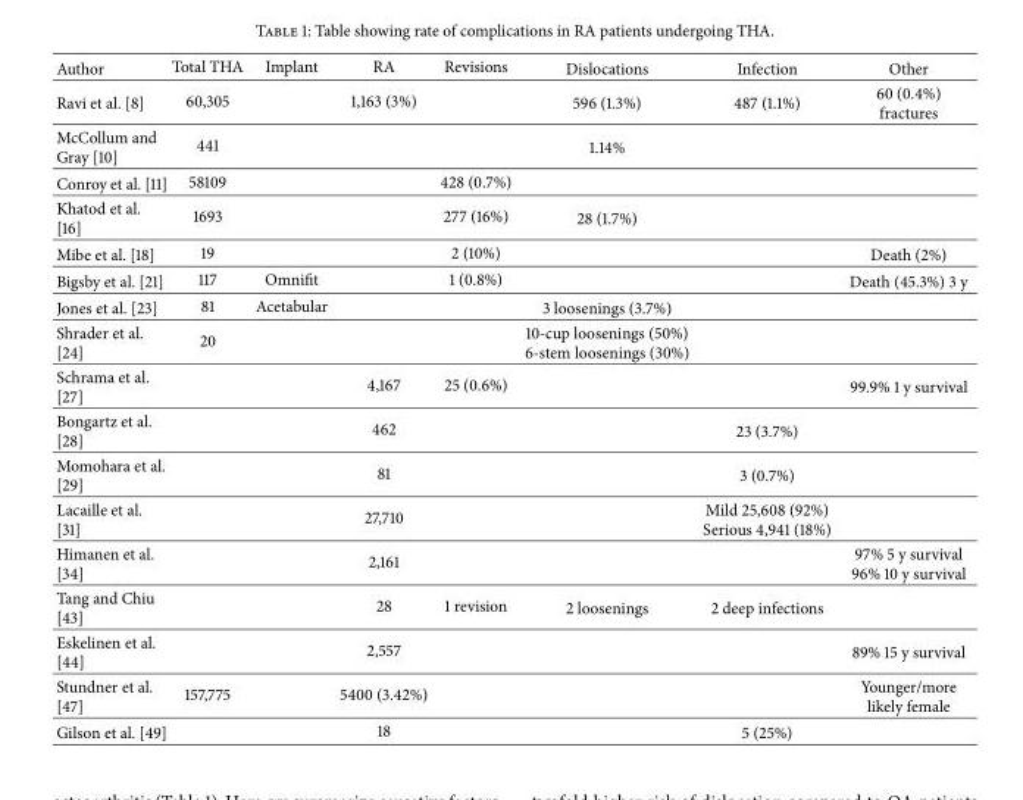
<table><thead><tr><td>Author</td><td>Total THA</td><td>Implant</td><td>RA</td><td>Revisions</td><td>Dislocations</td><td>Infection</td><td>Other</td></tr></thead><tbody><tr><td>Ravi et al. [8]</td><td>60,305</td><td></td><td>1,163 (3%)</td><td></td><td>596 (1.3%)</td><td>487 (1.1%)</td><td>60 (0.4%) fractures</td></tr><tr><td>McCollum and Gray [10]</td><td>441</td><td></td><td></td><td></td><td>1.14%</td><td></td><td></td></tr><tr><td>Conroy et al. [11]</td><td>58109</td><td></td><td></td><td>428 (0.7%)</td><td></td><td></td><td></td></tr><tr><td>Khatod et al. [16]</td><td>1693</td><td></td><td></td><td>277 (16%)</td><td>28 (1.7%)</td><td></td><td></td></tr><tr><td>Mibe et al. [18]</td><td>19</td><td></td><td></td><td>2 (10%)</td><td></td><td></td><td>Death (2%)</td></tr><tr><td>Bigsby et al. [21]</td><td>117</td><td>Omnifit</td><td></td><td>1 (0.8%)</td><td></td><td></td><td>Death (45.3%) 3 y</td></tr><tr><td>Jones et al. [23]</td><td>81</td><td>Acetabular</td><td></td><td></td><td>3 loosenings (3.7%)</td><td></td><td></td></tr><tr><td>Shrader et al. [24]</td><td>20</td><td></td><td></td><td></td><td>10-cup loosenings (50%) 6-stem loosenings (30%)</td><td></td><td></td></tr><tr><td>Schrama et al. [27]</td><td></td><td></td><td>4,167</td><td>25 (0.6%)</td><td></td><td></td><td>99.9% 1 y survival</td></tr><tr><td>Bongartz et al. [28]</td><td></td><td></td><td>462</td><td></td><td></td><td>23 (3.7%)</td><td></td></tr><tr><td>Momohara et al. [29]</td><td></td><td></td><td>81</td><td></td><td></td><td>3 (0.7%)</td><td></td></tr><tr><td>Lacaille et al. [31]</td><td></td><td></td><td>27,710</td><td></td><td></td><td>Mild 25,608 (92%) Serious 4,941 (18%)</td><td></td></tr><tr><td>Himanen et al. [34]</td><td></td><td></td><td>2,161</td><td></td><td></td><td></td><td>97% 5 y survival 96% 10 y survival</td></tr><tr><td>Tang and Chiu [43]</td><td></td><td></td><td>28</td><td>1 revision</td><td>2 loosenings</td><td>2 deep infections</td><td></td></tr><tr><td>Eskelinen et al. [44]</td><td></td><td></td><td>2,557</td><td></td><td></td><td></td><td>89% 15 y survival</td></tr><tr><td>Stundner et al. [47]</td><td>157,775</td><td></td><td>5400 (3.42%)</td><td></td><td></td><td></td><td>Younger/more likely female</td></tr><tr><td>Gilson et al. [49]</td><td></td><td></td><td>18</td><td></td><td></td><td>5 (25%)</td><td></td></tr></tbody></table>